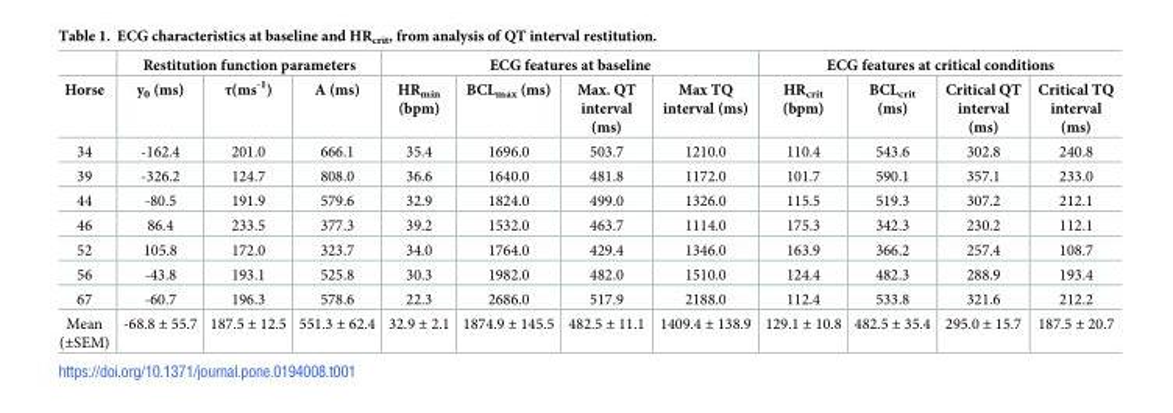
<table><thead><tr><td rowspan="2">Horse</td><td colspan="3">Restitution function parameters</td><td colspan="4">ECG features at baseline</td><td colspan="4">ECG features at critical conditions</td></tr><tr><td>y<sub>0</sub> (ms)</td><td>τ(ms<sup>-1</sup>)</td><td>A (ms)</td><td>HR<sub>min</sub> (bpm)</td><td>BCL<sub>max</sub> (ms)</td><td>Max. QT interval (ms)</td><td>Max TQ interval (ms)</td><td>HR<sub>crit</sub> (bpm)</td><td>BCL<sub>crit</sub> (ms)</td><td>Critical QT interval (ms)</td><td>Critical TQ interval (ms)</td></tr></thead><tbody><tr><td>34</td><td>-162.4</td><td>201.0</td><td>666.1</td><td>35.4</td><td>1696.0</td><td>503.7</td><td>1210.0</td><td>110.4</td><td>543.6</td><td>302.8</td><td>240.8</td></tr><tr><td>39</td><td>-326.2</td><td>124.7</td><td>808.0</td><td>36.6</td><td>1640.0</td><td>481.8</td><td>1172.0</td><td>101.7</td><td>590.1</td><td>357.1</td><td>233.0</td></tr><tr><td>44</td><td>-80.5</td><td>191.9</td><td>579.6</td><td>32.9</td><td>1824.0</td><td>499.0</td><td>1326.0</td><td>115.5</td><td>519.3</td><td>307.2</td><td>212.1</td></tr><tr><td>46</td><td>86.4</td><td>233.5</td><td>377.3</td><td>39.2</td><td>1532.0</td><td>463.7</td><td>1114.0</td><td>175.3</td><td>342.3</td><td>230.2</td><td>112.1</td></tr><tr><td>52</td><td>105.8</td><td>172.0</td><td>323.7</td><td>34.0</td><td>1764.0</td><td>429.4</td><td>1346.0</td><td>163.9</td><td>366.2</td><td>257.4</td><td>108.7</td></tr><tr><td>56</td><td>-43.8</td><td>193.1</td><td>525.8</td><td>30.3</td><td>1982.0</td><td>482.0</td><td>1510.0</td><td>124.4</td><td>482.3</td><td>288.9</td><td>193.4</td></tr><tr><td>67</td><td>-60.7</td><td>196.3</td><td>578.6</td><td>22.3</td><td>2686.0</td><td>517.9</td><td>2188.0</td><td>112.4</td><td>533.8</td><td>321.6</td><td>212.2</td></tr><tr><td>Mean (±SEM)</td><td>-68.8 ± 55.7</td><td>187.5 ± 12.5</td><td>551.3 ± 62.4</td><td>32.9 ± 2.1</td><td>1874.9 ± 145.5</td><td>482.5 ± 11.1</td><td>1409.4 ± 138.9</td><td>129.1 ± 10.8</td><td>482.5 ± 35.4</td><td>295.0 ± 15.7</td><td>187.5 ± 20.7</td></tr></tbody></table>